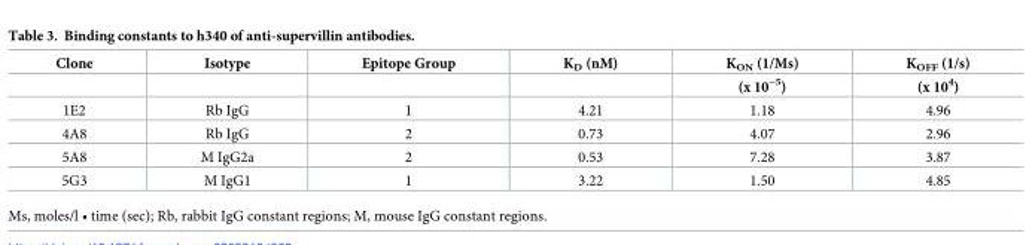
<table><thead><tr><td rowspan="2">Clone</td><td rowspan="2">Isotype</td><td rowspan="2">Epitope Group</td><td rowspan="2">K<sub>D</sub> (nM)</td><td rowspan="2">K<sub>ON</sub> (1/Ms) (x 10<sup>−5</sup>)</td><td rowspan="2">K<sub>OFF</sub> (1/s) (x 10<sup>4</sup>)</td></tr><tr></tr></thead><tbody><tr><td>1E2</td><td>Rb IgG</td><td>1</td><td>4.21</td><td>1.18</td><td>4.96</td></tr><tr><td>4A8</td><td>Rb IgG</td><td>2</td><td>0.73</td><td>4.07</td><td>2.96</td></tr><tr><td>5A8</td><td>M IgG2a</td><td>2</td><td>0.53</td><td>7.28</td><td>3.87</td></tr><tr><td>5G3</td><td>M IgG1</td><td>1</td><td>3.22</td><td>1.50</td><td>4.85</td></tr></tbody></table>